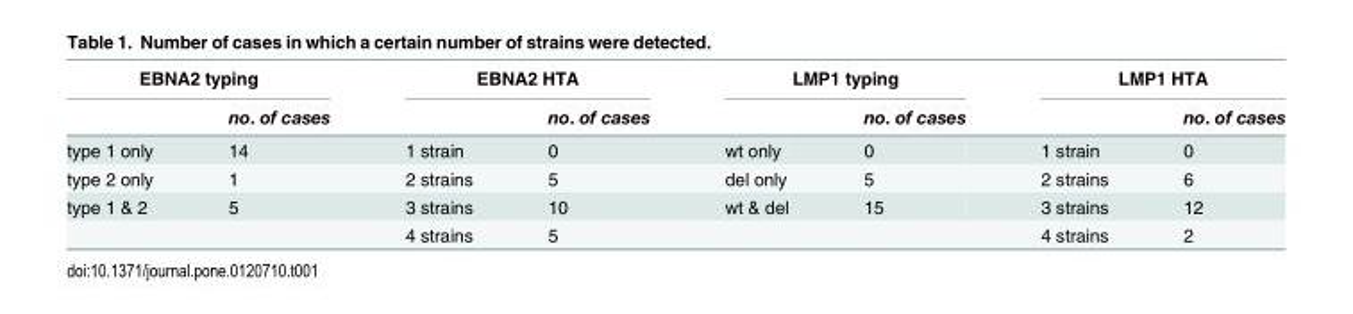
<table><thead><tr><td colspan="2">EBNA2 typing</td><td colspan="2">EBNA2 HTA</td><td colspan="2">LMP1 typing</td><td colspan="2">LMP1 HTA</td></tr><tr><td></td><td>no. of cases</td><td></td><td>no. of cases</td><td></td><td>no. of cases</td><td></td><td>no. of cases</td></tr></thead><tbody><tr><td>type 1 only</td><td>14</td><td>1 strain</td><td>0</td><td>wt only</td><td>0</td><td>1 strain</td><td>0</td></tr><tr><td>type 2 only</td><td>1</td><td>2 strains</td><td>5</td><td>del only</td><td>5</td><td>2 strains</td><td>6</td></tr><tr><td rowspan="2">type 1 &amp; 2</td><td>5</td><td>3 strains</td><td>10</td><td>wt &amp; del</td><td>15</td><td>3 strains</td><td>12</td></tr><tr><td></td><td>4 strains</td><td>5</td><td></td><td></td><td>4 strains</td><td>2</td></tr></tbody></table>